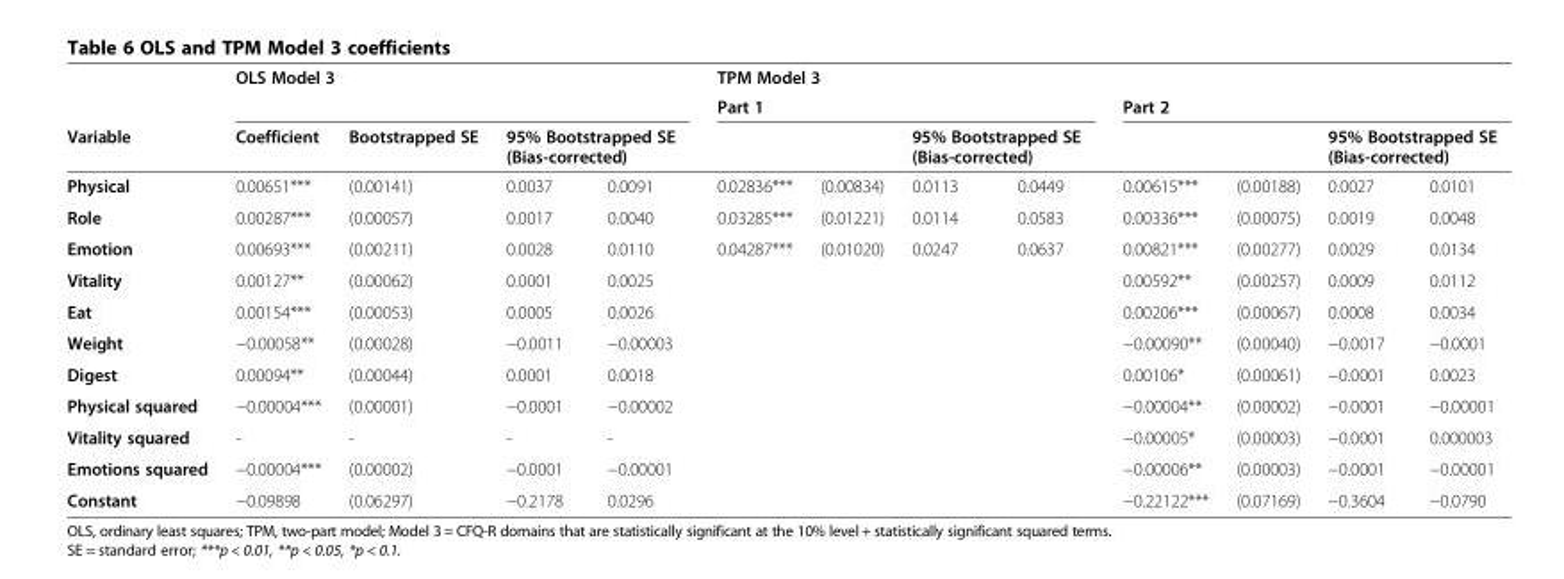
<table><thead><tr><td rowspan="4">Variable Physical</td><td colspan="4">OLS Model 3</td><td colspan="8">TPM Model 3</td></tr><tr><td rowspan="3">Coefficient 0.00651***</td><td rowspan="3">Bootstrapped SE (0.00141)</td><td></td><td></td><td colspan="4">Part 1</td><td colspan="4">Part 2</td></tr><tr><td colspan="2">95% Bootstrapped SE (Bias-corrected)</td><td rowspan="2">0.02836***</td><td rowspan="2">(0.00834)</td><td colspan="2">95% Bootstrapped SE (Bias-corrected)</td><td rowspan="2">0.00615***</td><td rowspan="2">(0.00188)</td><td colspan="2">95% Bootstrapped SE (Bias-corrected)</td></tr><tr><td>0.0037</td><td>0.0091</td><td>0.0113</td><td>0.0449</td><td>0.0027</td><td>0.0101</td></tr></thead><tbody><tr><td>Role</td><td>0.00287***</td><td>(0.00057)</td><td>0.0017</td><td>0.0040</td><td>0.03285***</td><td>(0.01221)</td><td>0.0114</td><td>0.0583</td><td>0.00336***</td><td>(0.00075)</td><td>0.0019</td><td>0.0048</td></tr><tr><td>Emotion</td><td>0.00693***</td><td>(0.00211)</td><td>0.0028</td><td>0.0110</td><td>0.04287***</td><td>(0.01020)</td><td>0.0247</td><td>0.0637</td><td>0.00821***</td><td>(0.00277)</td><td>0.0029</td><td>0.0134</td></tr><tr><td>Vitality</td><td>0.00127**</td><td>(0.00062)</td><td>0.0001</td><td>0.0025</td><td></td><td></td><td></td><td></td><td>0.00592**</td><td>(0.00257)</td><td>0.0009</td><td>0.0112</td></tr><tr><td>Eat</td><td>0.00154***</td><td>(0.00053)</td><td>0.0005</td><td>0.0026</td><td></td><td></td><td></td><td></td><td>0.00206***</td><td>(0.00067)</td><td>0.0008</td><td>0.0034</td></tr><tr><td>Weight</td><td>−0.00058**</td><td>(0.00028)</td><td>−0.0011</td><td>−0.00003</td><td></td><td></td><td></td><td></td><td>−0.00090**</td><td>(0.00040)</td><td>−0.0017</td><td>−0.0001</td></tr><tr><td>Digest</td><td>0.00094**</td><td>(0.00044)</td><td>0.0001</td><td>0.0018</td><td></td><td></td><td></td><td></td><td>0.00106*</td><td>(0.00061)</td><td>−0.0001</td><td>0.0023</td></tr><tr><td>Physical squared</td><td>−0.00004***</td><td>(0.00001)</td><td>−0.0001</td><td>−0.00002</td><td></td><td></td><td></td><td></td><td>−0.00004**</td><td>(0.00002)</td><td>−0.0001</td><td>−0.00001</td></tr><tr><td>Vitality squared</td><td>-</td><td>-</td><td>-</td><td>-</td><td></td><td></td><td></td><td></td><td>−0.00005*</td><td>(0.00003)</td><td>−0.0001</td><td>0.000003</td></tr><tr><td>Emotions squared</td><td>−0.00004***</td><td>(0.00002)</td><td>−0.0001</td><td>−0.00001</td><td></td><td></td><td></td><td></td><td>−0.00006**</td><td>(0.00003)</td><td>−0.0001</td><td>−0.00001</td></tr><tr><td>Constant</td><td>−0.09898</td><td>(0.06297)</td><td>−0.2178</td><td>0.0296</td><td></td><td></td><td></td><td></td><td>−0.22122***</td><td>(0.07169)</td><td>−0.3604</td><td>−0.0790</td></tr></tbody></table>